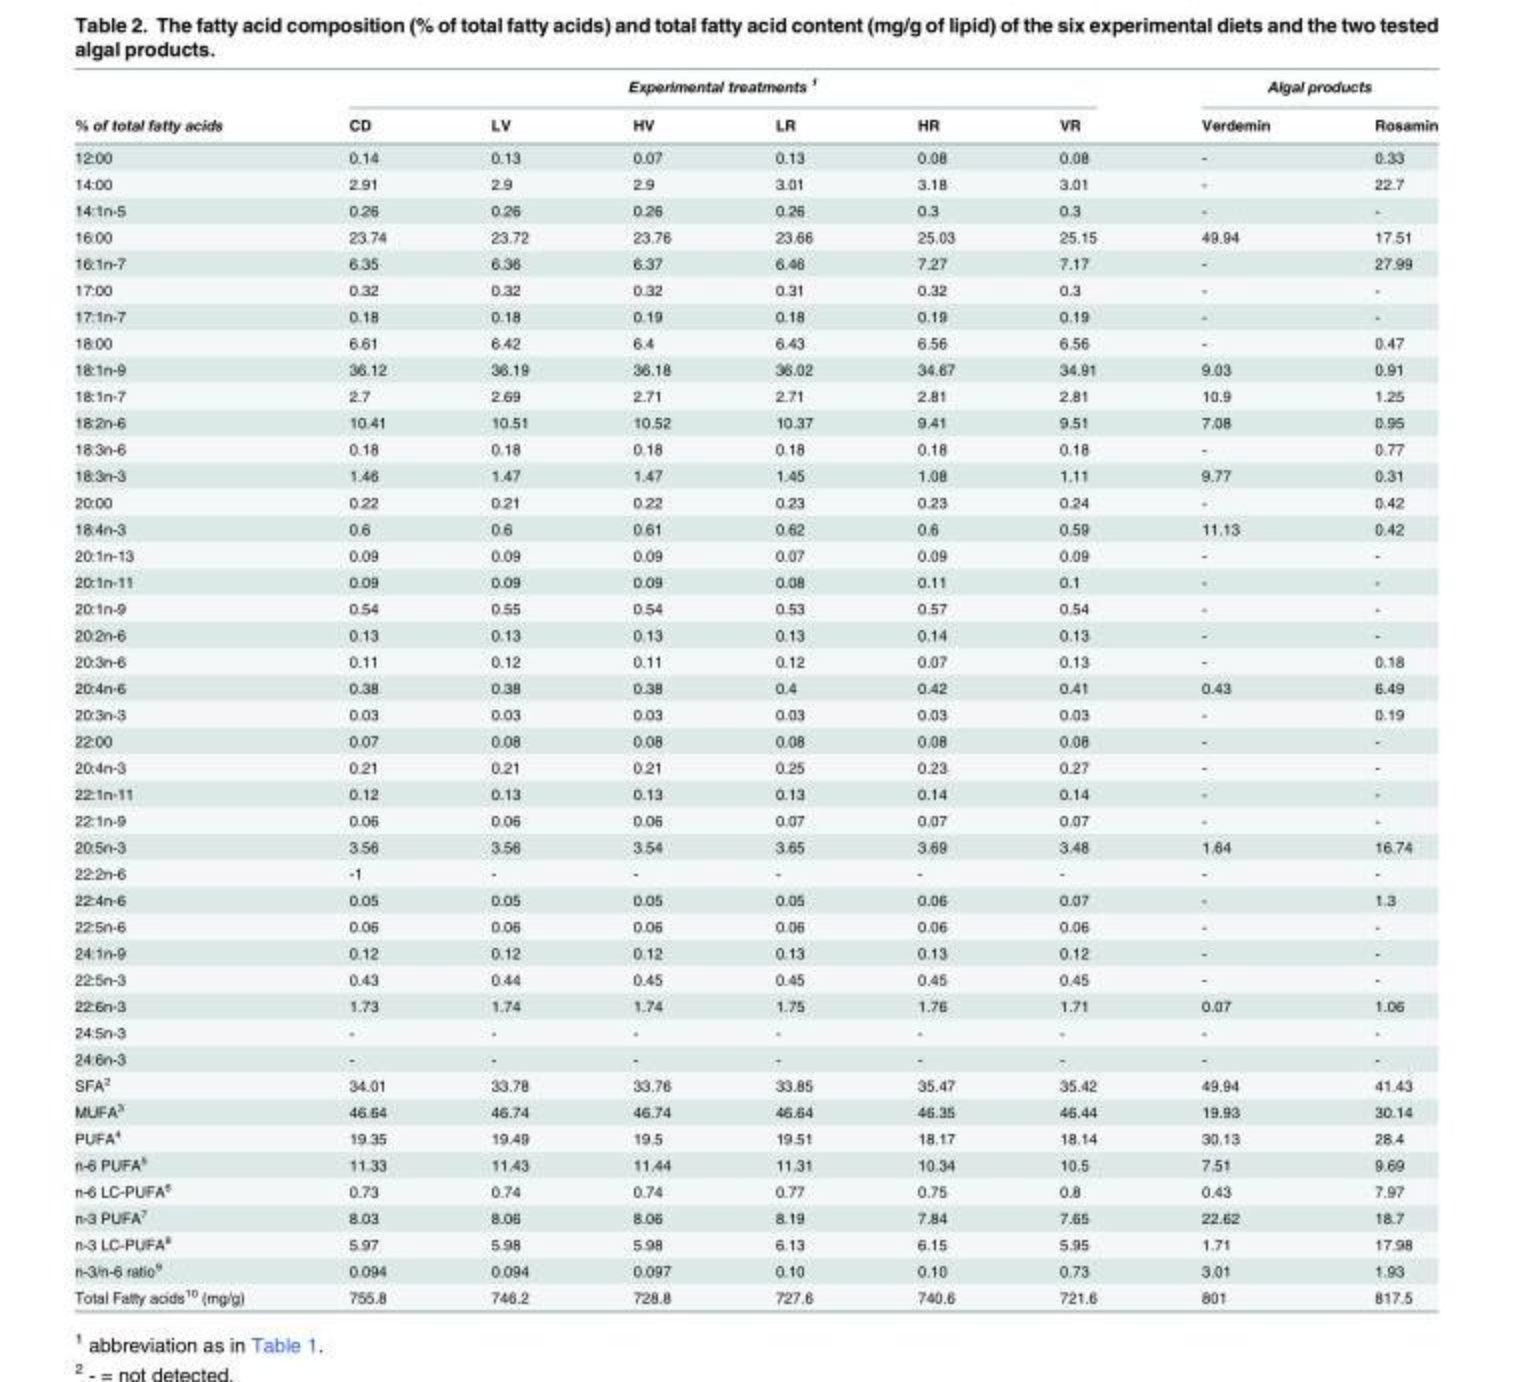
<table><thead><tr><td rowspan="2">% of total fatty acids</td><td colspan="6">Experimental treatments <sup>1</sup></td><td colspan="2">Algal products</td></tr><tr><td>CD</td><td>LV</td><td>HV</td><td>LR</td><td>HR</td><td>VR</td><td>Verdemin</td><td>Rosamin</td></tr></thead><tbody><tr><td>12:00</td><td>0.14</td><td>0.13</td><td>0.07</td><td>0.13</td><td>0.08</td><td>0.08</td><td>-</td><td>0.33</td></tr><tr><td>14:00</td><td>2.91</td><td>2.9</td><td>2.9</td><td>3.01</td><td>3.18</td><td>3.01</td><td>-</td><td>22.7</td></tr><tr><td>14:1n-5</td><td>0.26</td><td>0.26</td><td>0.26</td><td>0.26</td><td>0.3</td><td>0.3</td><td>-</td><td>-</td></tr><tr><td>16:00</td><td>23.74</td><td>23.72</td><td>23.76</td><td>23.66</td><td>25.03</td><td>25.15</td><td>49.94</td><td>17.51</td></tr><tr><td>16:1n-7</td><td>6.35</td><td>6.36</td><td>6.37</td><td>6.46</td><td>7.27</td><td>7.17</td><td>-</td><td>27.99</td></tr><tr><td>17:00</td><td>0.32</td><td>0.32</td><td>0.32</td><td>0.31</td><td>0.32</td><td>0.3</td><td>-</td><td>-</td></tr><tr><td>17:1n-7</td><td>0.18</td><td>0.18</td><td>0.19</td><td>0.18</td><td>0.19</td><td>0.19</td><td>-</td><td>-</td></tr><tr><td>18:00</td><td>6.61</td><td>6.42</td><td>6.4</td><td>6.43</td><td>6.56</td><td>6.56</td><td>-</td><td>0.47</td></tr><tr><td>18:1n-9</td><td>36.12</td><td>36.19</td><td>36.18</td><td>36.02</td><td>34.67</td><td>34.91</td><td>9.03</td><td>0.91</td></tr><tr><td>18:1n-7</td><td>2.7</td><td>2.69</td><td>2.71</td><td>2.71</td><td>2.81</td><td>2.81</td><td>10.9</td><td>1.25</td></tr><tr><td>18:2n-6</td><td>10.41</td><td>10.51</td><td>10.52</td><td>10.37</td><td>9.41</td><td>9.51</td><td>7.08</td><td>0.95</td></tr><tr><td>18:3n-6</td><td>0.18</td><td>0.18</td><td>0.18</td><td>0.18</td><td>0.18</td><td>0.18</td><td>-</td><td>0.77</td></tr><tr><td>18:3n-3</td><td>1.46</td><td>1.47</td><td>1.47</td><td>1.45</td><td>1.08</td><td>1.11</td><td>9.77</td><td>0.31</td></tr><tr><td>20:00</td><td>0.22</td><td>0.21</td><td>0.22</td><td>0.23</td><td>0.23</td><td>0.24</td><td>-</td><td>0.42</td></tr><tr><td>18:4n-3</td><td>0.6</td><td>0.6</td><td>0.61</td><td>0.62</td><td>0.6</td><td>0.59</td><td>11.13</td><td>0.42</td></tr><tr><td>20:1n-13</td><td>0.09</td><td>0.09</td><td>0.09</td><td>0.07</td><td>0.09</td><td>0.09</td><td>-</td><td>-</td></tr><tr><td>20:1n-11</td><td>0.09</td><td>0.09</td><td>0.09</td><td>0.08</td><td>0.11</td><td>0.1</td><td>-</td><td>-</td></tr><tr><td>20:1n-9</td><td>0.54</td><td>0.55</td><td>0.54</td><td>0.53</td><td>0.57</td><td>0.54</td><td>-</td><td>-</td></tr><tr><td>20:2n-6</td><td>0.13</td><td>0.13</td><td>0.13</td><td>0.13</td><td>0.14</td><td>0.13</td><td>-</td><td>-</td></tr><tr><td>20:3n-6</td><td>0.11</td><td>0.12</td><td>0.11</td><td>0.12</td><td>0.07</td><td>0.13</td><td>-</td><td>0.18</td></tr><tr><td>20:4n-6</td><td>0.38</td><td>0.38</td><td>0.38</td><td>0.4</td><td>0.42</td><td>0.41</td><td>0.43</td><td>6.49</td></tr><tr><td>20:3n-3</td><td>0.03</td><td>0.03</td><td>0.03</td><td>0.03</td><td>0.03</td><td>0.03</td><td>-</td><td>0.19</td></tr><tr><td>22:00</td><td>0.07</td><td>0.08</td><td>0.08</td><td>0.08</td><td>0.08</td><td>0.08</td><td>-</td><td>-</td></tr><tr><td>20:4n-3</td><td>0.21</td><td>0.21</td><td>0.21</td><td>0.25</td><td>0.23</td><td>0.27</td><td>-</td><td>-</td></tr><tr><td>22:1n-11</td><td>0.12</td><td>0.13</td><td>0.13</td><td>0.13</td><td>0.14</td><td>0.14</td><td>-</td><td>-</td></tr><tr><td>22:1n-9</td><td>0.06</td><td>0.06</td><td>0.06</td><td>0.07</td><td>0.07</td><td>0.07</td><td>-</td><td>-</td></tr><tr><td>20:5n-3</td><td>3.56</td><td>3.56</td><td>3.54</td><td>3.65</td><td>3.69</td><td>3.48</td><td>1.64</td><td>16.74</td></tr><tr><td>22:2n-6</td><td>-1</td><td>-</td><td>-</td><td>-</td><td>-</td><td>-</td><td>-</td><td>-</td></tr><tr><td>22:4n-6</td><td>0.05</td><td>0.05</td><td>0.05</td><td>0.05</td><td>0.06</td><td>0.07</td><td>-</td><td>1.3</td></tr><tr><td>22:5n-6</td><td>0.06</td><td>0.06</td><td>0.06</td><td>0.06</td><td>0.06</td><td>0.06</td><td>-</td><td>-</td></tr><tr><td>24:1n-9</td><td>0.12</td><td>0.12</td><td>0.12</td><td>0.13</td><td>0.13</td><td>0.12</td><td>-</td><td>-</td></tr><tr><td>22:5n-3</td><td>0.43</td><td>0.44</td><td>0.45</td><td>0.45</td><td>0.45</td><td>0.45</td><td>-</td><td>-</td></tr><tr><td>22:6n-3</td><td>1.73</td><td>1.74</td><td>1.74</td><td>1.75</td><td>1.76</td><td>1.71</td><td>0.07</td><td>1.06</td></tr><tr><td>24:5n-3</td><td>-</td><td>-</td><td>-</td><td>-</td><td>-</td><td>-</td><td>-</td><td>-</td></tr><tr><td>24:6n-3</td><td>-</td><td>-</td><td>-</td><td>-</td><td>-</td><td>-</td><td>-</td><td>-</td></tr><tr><td>SFA<sup>2</sup></td><td>34.01</td><td>33.78</td><td>33.76</td><td>33.85</td><td>35.47</td><td>35.42</td><td>49.94</td><td>41.43</td></tr><tr><td>MUFA<sup>3</sup></td><td>46.64</td><td>46.74</td><td>46.74</td><td>46.64</td><td>46.35</td><td>46.44</td><td>19.93</td><td>30.14</td></tr><tr><td>PUFA<sup>4</sup></td><td>19.35</td><td>19.49</td><td>19.5</td><td>19.51</td><td>18.17</td><td>18.14</td><td>30.13</td><td>28.4</td></tr><tr><td>n-6 PUFA<sup>5</sup></td><td>11.33</td><td>11.43</td><td>11.44</td><td>11.31</td><td>10.34</td><td>10.5</td><td>7.51</td><td>9.69</td></tr><tr><td>n-6 LC-PUFA<sup>6</sup></td><td>0.73</td><td>0.74</td><td>0.74</td><td>0.77</td><td>0.75</td><td>0.8</td><td>0.43</td><td>7.97</td></tr><tr><td>n-3 PUFA<sup>7</sup></td><td>8.03</td><td>8.06</td><td>8.06</td><td>8.19</td><td>7.84</td><td>7.65</td><td>22.62</td><td>18.7</td></tr><tr><td>n-3 LC-PUFA<sup>8</sup></td><td>5.97</td><td>5.98</td><td>5.98</td><td>6.13</td><td>6.15</td><td>5.95</td><td>1.71</td><td>17.98</td></tr><tr><td>n-3/n-6 ratio<sup>9</sup></td><td>0.094</td><td>0.094</td><td>0.097</td><td>0.10</td><td>0.10</td><td>0.73</td><td>3.01</td><td>1.93</td></tr><tr><td>Total Fatty acids<sup>10</sup> (mg/g)</td><td>755.8</td><td>746.2</td><td>728.8</td><td>727.6</td><td>740.6</td><td>721.6</td><td>801</td><td>817.5</td></tr></tbody></table>